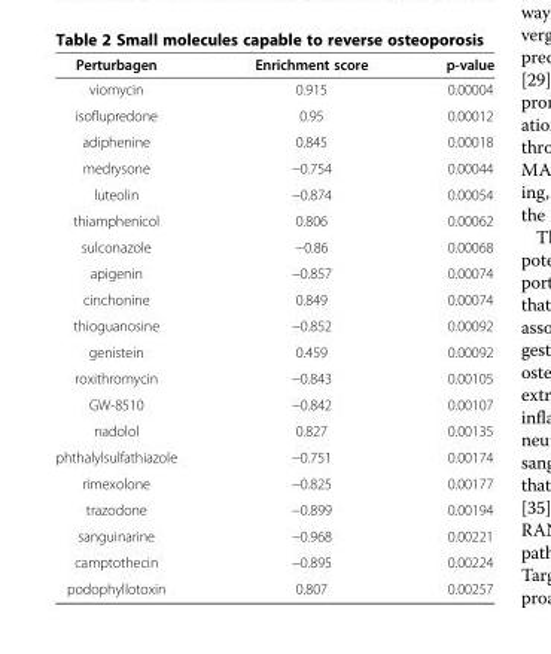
<table><thead><tr><td>Perturbagen</td><td>Enrichment score</td><td>p-value</td></tr></thead><tbody><tr><td>viomycin</td><td>0.915</td><td>0.00004</td></tr><tr><td>isoflupredone</td><td>0.95</td><td>0.00012</td></tr><tr><td>adiphenine</td><td>0.845</td><td>0.00018</td></tr><tr><td>medrysone</td><td>−0.754</td><td>0.00044</td></tr><tr><td>luteolin</td><td>−0.874</td><td>0.00054</td></tr><tr><td>thiamphenicol</td><td>0.806</td><td>0.00062</td></tr><tr><td>sulconazole</td><td>−0.86</td><td>0.00068</td></tr><tr><td>apigenin</td><td>−0.857</td><td>0.00074</td></tr><tr><td>cinchonine</td><td>0.849</td><td>0.00074</td></tr><tr><td>thioguanosine</td><td>−0.852</td><td>0.00092</td></tr><tr><td>genistein</td><td>0.459</td><td>0.00092</td></tr><tr><td>roxithromycin</td><td>−0.843</td><td>0.00105</td></tr><tr><td>GW-8510</td><td>−0.842</td><td>0.00107</td></tr><tr><td>nadolol</td><td>0.827</td><td>0.00135</td></tr><tr><td>phthalylsulfathiazole</td><td>−0.751</td><td>0.00174</td></tr><tr><td>rimexolone</td><td>−0.825</td><td>0.00177</td></tr><tr><td>trazodone</td><td>−0.899</td><td>0.00194</td></tr><tr><td>sanguinarine</td><td>−0.968</td><td>0.00221</td></tr><tr><td>camptothecin</td><td>−0.895</td><td>0.00224</td></tr><tr><td>podophyllotoxin</td><td>0.807</td><td>0.00257</td></tr></tbody></table>